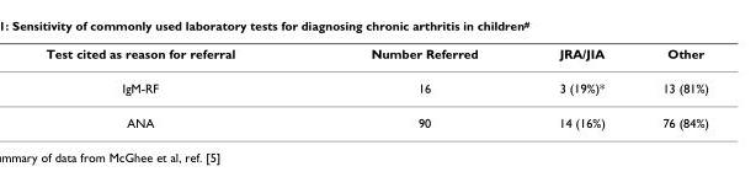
<table><thead><tr><td>Test cited as reason for referral</td><td>Number Referred</td><td>JRA/JIA</td><td>Other</td></tr></thead><tbody><tr><td>IgM-RF</td><td>16</td><td>3 (19%)*</td><td>13 (81%)</td></tr><tr><td>ANA</td><td>90</td><td>14 (16%)</td><td>76 (84%)</td></tr></tbody></table>